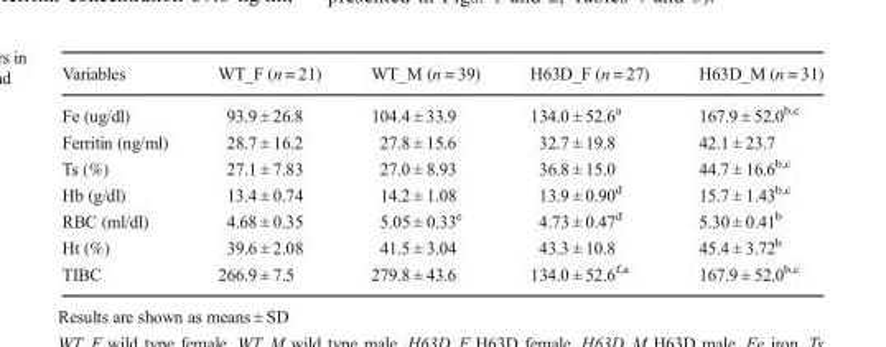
<table><thead><tr><td>Variables</td><td>WT_F (n = 21)</td><td>WT_M (n = 39)</td><td>H63D_F (n = 27)</td><td>H63D_M (n = 31)</td></tr></thead><tbody><tr><td>Fe (ug/dl)</td><td>93.9 ± 26.8</td><td>104.4 ± 33.9</td><td>134.0 ± 52.6<sup>a</sup></td><td>167.9 ± 52.0<sup>b,c</sup></td></tr><tr><td>Ferritin (ng/ml)</td><td>28.7 ± 16.2</td><td>27.8 ± 15.6</td><td>32.7 ± 19.8</td><td>42.1 ± 23.7</td></tr><tr><td>Ts (%)</td><td>27.1 ± 7.83</td><td>27.0 ± 8.93</td><td>36.8 ± 15.0</td><td>44.7 ± 16.6<sup>b,c</sup></td></tr><tr><td>Hb (g/dl)</td><td>13.4 ± 0.74</td><td>14.2 ± 1.08</td><td>13.9 ± 0.90<sup>d</sup></td><td>15.7 ± 1.43<sup>b,c</sup></td></tr><tr><td>RBC (ml/dl)</td><td>4.68 ± 0.35</td><td>5.05 ± 0.33<sup>e</sup></td><td>4.73 ± 0.47<sup>d</sup></td><td>5.30 ± 0.41<sup>b</sup></td></tr><tr><td>Ht (%)</td><td>39.6 ± 2.08</td><td>41.5 ± 3.04</td><td>43.3 ± 10.8</td><td>45.4 ± 3.72<sup>b</sup></td></tr><tr><td>TIBC</td><td>266.9 ± 7.5</td><td>279.8 ± 43.6</td><td>134.0 ± 52.6<sup>f,a</sup></td><td>167.9 ± 52.0<sup>b,c</sup></td></tr></tbody></table>